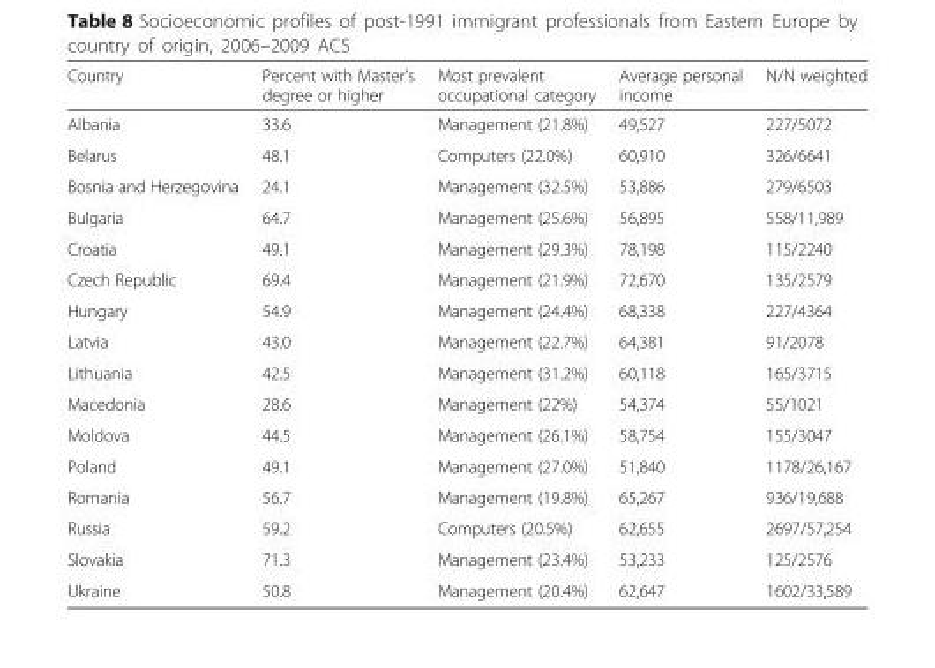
<table><thead><tr><td>Country</td><td>Percent with Master’s degree or higher</td><td>Most prevalent occupational category</td><td>Average personal income</td><td>N/N weighted</td></tr></thead><tbody><tr><td>Albania</td><td>33.6</td><td>Management (21.8%)</td><td>49,527</td><td>227/5072</td></tr><tr><td>Belarus</td><td>48.1</td><td>Computers (22.0%)</td><td>60,910</td><td>326/6641</td></tr><tr><td>Bosnia and Herzegovina</td><td>24.1</td><td>Management (32.5%)</td><td>53,886</td><td>279/6503</td></tr><tr><td>Bulgaria</td><td>64.7</td><td>Management (25.6%)</td><td>56,895</td><td>558/11,989</td></tr><tr><td>Croatia</td><td>49.1</td><td>Management (29.3%)</td><td>78,198</td><td>115/2240</td></tr><tr><td>Czech Republic</td><td>69.4</td><td>Management (21.9%)</td><td>72,670</td><td>135/2579</td></tr><tr><td>Hungary</td><td>54.9</td><td>Management (24.4%)</td><td>68,338</td><td>227/4364</td></tr><tr><td>Latvia</td><td>43.0</td><td>Management (22.7%)</td><td>64,381</td><td>91/2078</td></tr><tr><td>Lithuania</td><td>42.5</td><td>Management (31.2%)</td><td>60,118</td><td>165/3715</td></tr><tr><td>Macedonia</td><td>28.6</td><td>Management (22%)</td><td>54,374</td><td>55/1021</td></tr><tr><td>Moldova</td><td>44.5</td><td>Management (26.1%)</td><td>58,754</td><td>155/3047</td></tr><tr><td>Poland</td><td>49.1</td><td>Management (27.0%)</td><td>51,840</td><td>1178/26,167</td></tr><tr><td>Romania</td><td>56.7</td><td>Management (19.8%)</td><td>65,267</td><td>936/19,688</td></tr><tr><td>Russia</td><td>59.2</td><td>Computers (20.5%)</td><td>62,655</td><td>2697/57,254</td></tr><tr><td>Slovakia</td><td>71.3</td><td>Management (23.4%)</td><td>53,233</td><td>125/2576</td></tr><tr><td>Ukraine</td><td>50.8</td><td>Management (20.4%)</td><td>62,647</td><td>1602/33,589</td></tr></tbody></table>